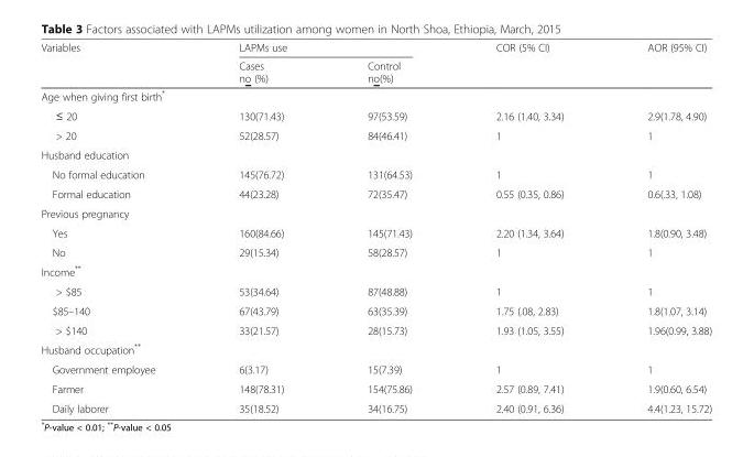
<table><thead><tr><td rowspan="2">Variables</td><td colspan="2">LAPMs use</td><td rowspan="2">COR (5% CI)</td><td rowspan="2">AOR (95% CI)</td></tr><tr><td>Cases no (%)</td><td>Control no(%)</td></tr></thead><tbody><tr><td colspan="5">Age when giving first birth*</td></tr><tr><td>≤ 20</td><td>130(71.43)</td><td>97(53.59)</td><td>2.16 (1.40, 3.34)</td><td>2.9(1.78, 4.90)</td></tr><tr><td>&gt; 20</td><td>52(28.57)</td><td>84(46.41)</td><td>1</td><td>1</td></tr><tr><td colspan="5">Husband education</td></tr><tr><td>No formal education</td><td>145(76.72)</td><td>131(64.53)</td><td>1</td><td>1</td></tr><tr><td>Formal education</td><td>44(23.28)</td><td>72(35.47)</td><td>0.55 (0.35, 0.86)</td><td>0.6(.33, 1.08)</td></tr><tr><td colspan="5">Previous pregnancy</td></tr><tr><td>Yes</td><td>160(84.66)</td><td>145(71.43)</td><td>2.20 (1.34, 3.64)</td><td>1.8(0.90, 3.48)</td></tr><tr><td>No</td><td>29(15.34)</td><td>58(28.57)</td><td>1</td><td>1</td></tr><tr><td colspan="5">Income**</td></tr><tr><td>&gt; $85</td><td>53(34.64)</td><td>87(48.88)</td><td>1</td><td>1</td></tr><tr><td>$85–140</td><td>67(43.79)</td><td>63(35.39)</td><td>1.75 (.08, 2.83)</td><td>1.8(1.07, 3.14)</td></tr><tr><td>&gt; $140</td><td>33(21.57)</td><td>28(15.73)</td><td>1.93 (1.05, 3.55)</td><td>1.96(0.99, 3.88)</td></tr><tr><td colspan="5">Husband occupation**</td></tr><tr><td>Government employee</td><td>6(3.17)</td><td>15(7.39)</td><td>1</td><td>1</td></tr><tr><td>Farmer</td><td>148(78.31)</td><td>154(75.86)</td><td>2.57 (0.89, 7.41)</td><td>1.9(0.60, 6.54)</td></tr><tr><td>Daily laborer</td><td>35(18.52)</td><td>34(16.75)</td><td>2.40 (0.91, 6.36)</td><td>4.4(1.23, 15.72)</td></tr></tbody></table>